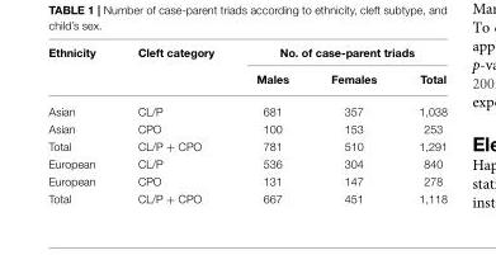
<table><thead><tr><td rowspan="2">Ethnicity</td><td rowspan="2">Cleft category</td><td colspan="3">No. of case-parent triads</td></tr><tr><td>Males</td><td>Females</td><td>Total</td></tr></thead><tbody><tr><td>Asian</td><td>CL/P</td><td>681</td><td>357</td><td>1,038</td></tr><tr><td>Asian</td><td>CPO</td><td>100</td><td>153</td><td>253</td></tr><tr><td>Total</td><td>CL/P + CPO</td><td>781</td><td>510</td><td>1,291</td></tr><tr><td>European</td><td>CL/P</td><td>536</td><td>304</td><td>840</td></tr><tr><td>European</td><td>CPO</td><td>131</td><td>147</td><td>278</td></tr><tr><td>Total</td><td>CL/P + CPO</td><td>667</td><td>451</td><td>1,118</td></tr></tbody></table>